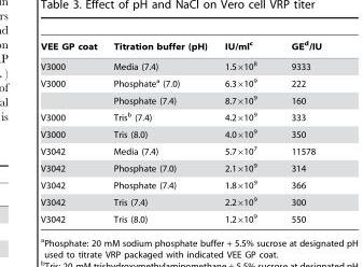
<table><thead><tr><td>VEE GP coat</td><td>Titration buffer (pH)</td><td>IU/ml<sup>c</sup></td><td>GE<sup>d</sup>/IU</td></tr></thead><tbody><tr><td>V3000</td><td>Media (7.4)</td><td>1.5×10<sup>8</sup></td><td>9333</td></tr><tr><td rowspan="2">V3000</td><td>Phosphate<sup>a</sup> (7.0)</td><td>6.3×10<sup>9</sup></td><td>222</td></tr><tr><td>Phosphate (7.4)</td><td>8.7×10<sup>9</sup></td><td>160</td></tr><tr><td>V3000</td><td>Tris<sup>b</sup> (7.4)</td><td>4.2×10<sup>9</sup></td><td>333</td></tr><tr><td>V3000</td><td>Tris (8.0)</td><td>4.0×10<sup>9</sup></td><td>350</td></tr><tr><td>V3042</td><td>Media (7.4)</td><td>5.7×10<sup>7</sup></td><td>11578</td></tr><tr><td>V3042</td><td>Phosphate (7.0)</td><td>2.1×10<sup>9</sup></td><td>314</td></tr><tr><td>V3042</td><td>Phosphate (7.4)</td><td>1.8×10<sup>9</sup></td><td>366</td></tr><tr><td>V3042</td><td>Tris (7.4)</td><td>2.2×10<sup>9</sup></td><td>300</td></tr><tr><td>V3042</td><td>Tris (8.0)</td><td>1.2×10<sup>9</sup></td><td>550</td></tr></tbody></table>